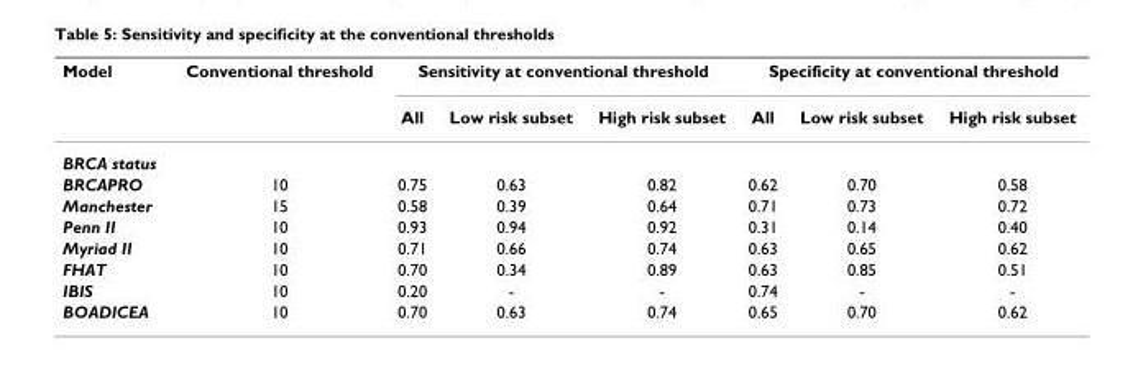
<table><thead><tr><td rowspan="2">Model</td><td rowspan="2">Conventional threshold</td><td colspan="3">Sensitivity at conventional threshold</td><td colspan="3">Specificity at conventional threshold</td></tr><tr><td>All</td><td>Low risk subset</td><td>High risk subset</td><td>All</td><td>Low risk subset</td><td>High risk subset</td></tr></thead><tbody><tr><td colspan="8">BRCA status</td></tr><tr><td>BRCAPRO</td><td>10</td><td>0.75</td><td>0.63</td><td>0.82</td><td>0.62</td><td>0.70</td><td>0.58</td></tr><tr><td>Manchester</td><td>15</td><td>0.58</td><td>0.39</td><td>0.64</td><td>0.71</td><td>0.73</td><td>0.72</td></tr><tr><td>Penn II</td><td>10</td><td>0.93</td><td>0.94</td><td>0.92</td><td>0.31</td><td>0.14</td><td>0.40</td></tr><tr><td>Myriad II</td><td>10</td><td>0.71</td><td>0.66</td><td>0.74</td><td>0.63</td><td>0.65</td><td>0.62</td></tr><tr><td>FHAT</td><td>10</td><td>0.70</td><td>0.34</td><td>0.89</td><td>0.63</td><td>0.85</td><td>0.51</td></tr><tr><td>IBIS</td><td>10</td><td>0.20</td><td>-</td><td>-</td><td>0.74</td><td>-</td><td>-</td></tr><tr><td>BOADICEA</td><td>10</td><td>0.70</td><td>0.63</td><td>0.74</td><td>0.65</td><td>0.70</td><td>0.62</td></tr></tbody></table>